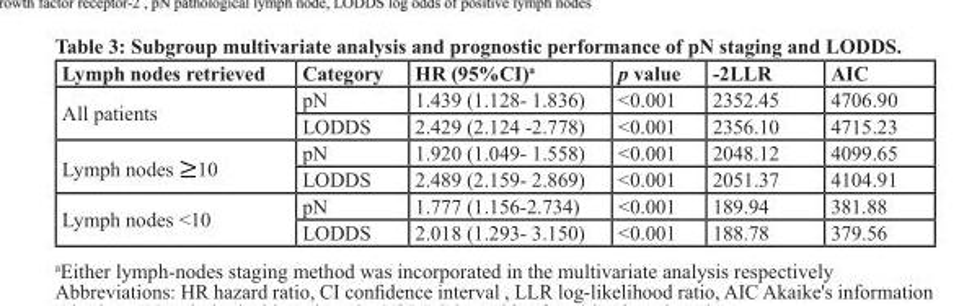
<table><thead><tr><td>Lymph nodes retrieved</td><td>Category</td><td>HR (95%CI)<sup>a</sup></td><td>p value</td><td>-2LLR</td><td>AIC</td></tr></thead><tbody><tr><td rowspan="2">All patients</td><td>pN</td><td>1.439 (1.128- 1.836)</td><td>&lt;0.001</td><td>2352.45</td><td>4706.90</td></tr><tr><td>LODDS</td><td>2.429 (2.124 -2.778)</td><td>&lt;0.001</td><td>2356.10</td><td>4715.23</td></tr><tr><td rowspan="2">Lymph nodes ≥10</td><td>pN</td><td>1.920 (1.049- 1.558)</td><td>&lt;0.001</td><td>2048.12</td><td>4099.65</td></tr><tr><td>LODDS</td><td>2.489 (2.159- 2.869)</td><td>&lt;0.001</td><td>2051.37</td><td>4104.91</td></tr><tr><td rowspan="2">Lymph nodes &lt;10</td><td>pN</td><td>1.777 (1.156-2.734)</td><td>&lt;0.001</td><td>189.94</td><td>381.88</td></tr><tr><td>LODDS</td><td>2.018 (1.293- 3.150)</td><td>&lt;0.001</td><td>188.78</td><td>379.56</td></tr></tbody></table>